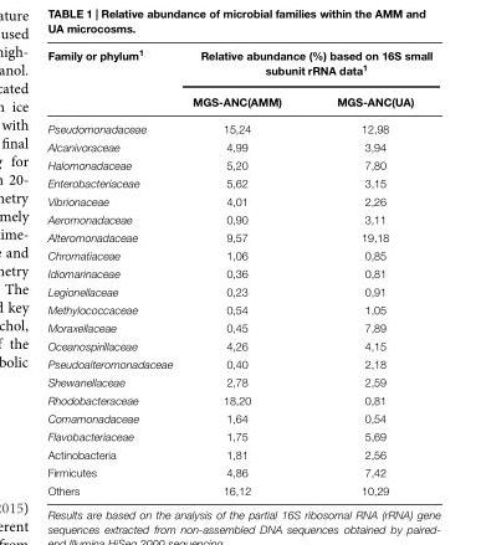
<table><thead><tr><td rowspan="2">Family or phylum<sup>1</sup></td><td colspan="2">Relative abundance (%) based on 16S small subunit rRNA data<sup>1</sup></td></tr><tr><td>MGS-ANC(AMM)</td><td>MGS-ANC(UA)</td></tr></thead><tbody><tr><td>Pseudomonadaceae</td><td>15,24</td><td>12,98</td></tr><tr><td>Alcanivoraceae</td><td>4,99</td><td>3,94</td></tr><tr><td>Halomonadaceae</td><td>5,20</td><td>7,80</td></tr><tr><td>Enterobacteriaceae</td><td>5,62</td><td>3,15</td></tr><tr><td>Vibrionaceae</td><td>4,01</td><td>2,26</td></tr><tr><td>Aeromonadaceae</td><td>0,90</td><td>3,11</td></tr><tr><td>Alteromonadaceae</td><td>9,57</td><td>19,18</td></tr><tr><td>Chromatiaceae</td><td>1,06</td><td>0,85</td></tr><tr><td>Idiomarinaceae</td><td>0,36</td><td>0,81</td></tr><tr><td>Legionellaceae</td><td>0,23</td><td>0,91</td></tr><tr><td>Methylococcaceae</td><td>0,54</td><td>1,05</td></tr><tr><td>Moraxellaceae</td><td>0,45</td><td>7,89</td></tr><tr><td>Oceanospirillaceae</td><td>4,26</td><td>4,15</td></tr><tr><td>Pseudoalteromonadaceae</td><td>0,40</td><td>2,18</td></tr><tr><td>Shewanellaceae</td><td>2,78</td><td>2,59</td></tr><tr><td>Rhodobacteraceae</td><td>18,20</td><td>0,81</td></tr><tr><td>Comamonadaceae</td><td>1,64</td><td>0,54</td></tr><tr><td>Flavobacteriaceae</td><td>1,75</td><td>5,69</td></tr><tr><td>Actinobacteria</td><td>1,81</td><td>2,56</td></tr><tr><td>Firmicutes</td><td>4,86</td><td>7,42</td></tr><tr><td>Others</td><td>16,12</td><td>10,29</td></tr></tbody></table>